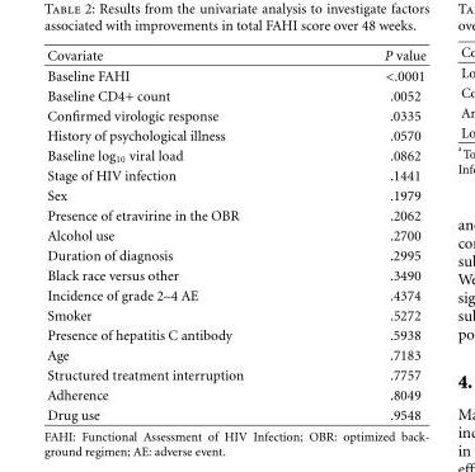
<table><thead><tr><td>Covariate</td><td>P value</td></tr></thead><tbody><tr><td>Baseline FAHI</td><td>&lt;.0001</td></tr><tr><td>Baseline CD4+ count</td><td>.0052</td></tr><tr><td>Confirmed virologic response</td><td>.0335</td></tr><tr><td>History of psychological illness</td><td>.0570</td></tr><tr><td>Baseline log<sub>10</sub> viral load</td><td>.0862</td></tr><tr><td>Stage of HIV infection</td><td>.1441</td></tr><tr><td>Sex</td><td>.1979</td></tr><tr><td>Presence of etravirine in the OBR</td><td>.2062</td></tr><tr><td>Alcohol use</td><td>.2700</td></tr><tr><td>Duration of diagnosis</td><td>.2995</td></tr><tr><td>Black race versus other</td><td>.3490</td></tr><tr><td>Incidence of grade 2–4 AE</td><td>.4374</td></tr><tr><td>Smoker</td><td>.5272</td></tr><tr><td>Presence of hepatitis C antibody</td><td>.5938</td></tr><tr><td>Age</td><td>.7183</td></tr><tr><td>Structured treatment interruption</td><td>.7757</td></tr><tr><td>Adherence</td><td>.8049</td></tr><tr><td>Drug use</td><td>.9548</td></tr></tbody></table>